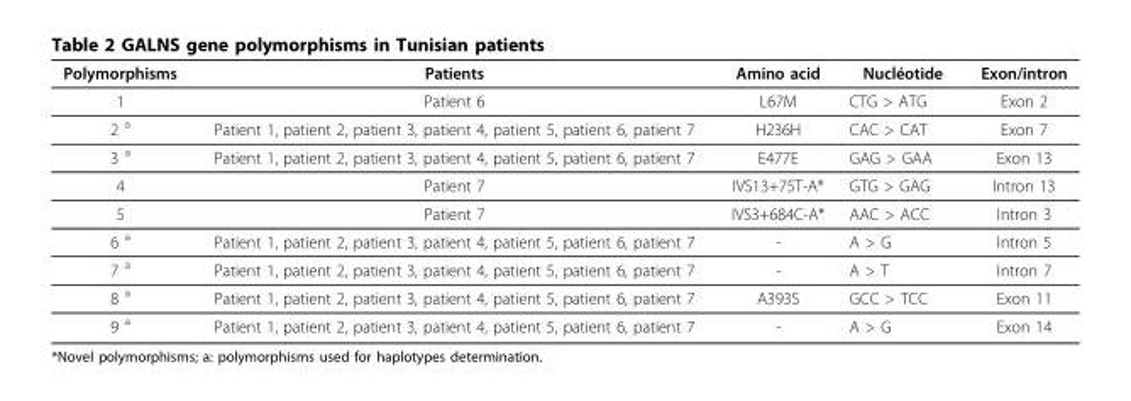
<table><thead><tr><td>Polymorphisms</td><td>Patients</td><td>Amino acid</td><td>Nucléotide</td><td>Exon/intron</td></tr></thead><tbody><tr><td>1</td><td>Patient 6</td><td>L67M</td><td>CTG &gt; ATG</td><td>Exon 2</td></tr><tr><td>2 <sup>a</sup></td><td>Patient 1, patient 2, patient 3, patient 4, patient 5, patient 6, patient 7</td><td>H236H</td><td>CAC &gt; CAT</td><td>Exon 7</td></tr><tr><td>3 <sup>a</sup></td><td>Patient 1, patient 2, patient 3, patient 4, patient 5, patient 6, patient 7</td><td>E477E</td><td>GAG &gt; GAA</td><td>Exon 13</td></tr><tr><td>4</td><td>Patient 7</td><td>IVS13+75T-A*</td><td>GTG &gt; GAG</td><td>Intron 13</td></tr><tr><td>5</td><td>Patient 7</td><td>IVS3+684C-A*</td><td>AAC &gt; ACC</td><td>Intron 3</td></tr><tr><td>6 <sup>a</sup></td><td>Patient 1, patient 2, patient 3, patient 4, patient 5, patient 6, patient 7</td><td>-</td><td>A &gt; G</td><td>Intron 5</td></tr><tr><td>7 <sup>a</sup></td><td>Patient 1, patient 2, patient 3, patient 4, patient 5, patient 6, patient 7</td><td>-</td><td>A &gt; T</td><td>Intron 7</td></tr><tr><td>8 <sup>a</sup></td><td>Patient 1, patient 2, patient 3, patient 4, patient 5, patient 6, patient 7</td><td>A393S</td><td>GCC &gt; TCC</td><td>Exon 11</td></tr><tr><td>9 <sup>a</sup></td><td>Patient 1, patient 2, patient 3, patient 4, patient 5, patient 6, patient 7</td><td>-</td><td>A &gt; G</td><td>Exon 14</td></tr></tbody></table>